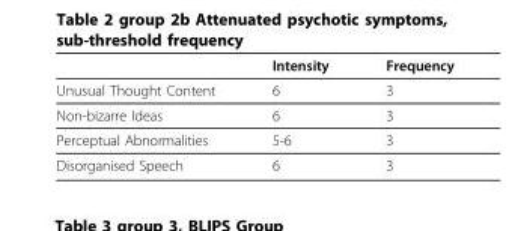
<table><thead><tr><td></td><td>Intensity</td><td>Frequency</td></tr></thead><tbody><tr><td>Unusual Thought Content</td><td>6</td><td>3</td></tr><tr><td>Non-bizarre Ideas</td><td>6</td><td>3</td></tr><tr><td>Perceptual Abnormalities</td><td>5-6</td><td>3</td></tr><tr><td>Disorganised Speech</td><td>6</td><td>3</td></tr></tbody></table>